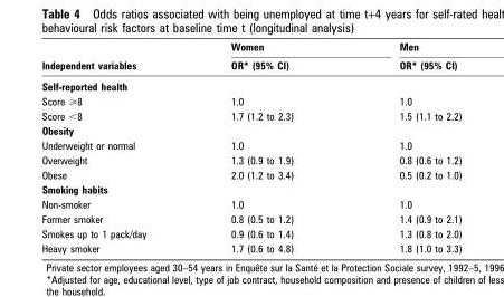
<table><thead><tr><td rowspan="2">Independent variables</td><td rowspan="2">Women OR* (95% CI)</td><td rowspan="2">Men OR* (95% CI)</td></tr><tr></tr></thead><tbody><tr><td colspan="3">Self-reported health</td></tr><tr><td>Score &gt;8</td><td>1.0</td><td>1.0</td></tr><tr><td>Score &lt;8</td><td>1.7 (1.2 to 2.3)</td><td>1.5 (1.1 to 2.2)</td></tr><tr><td colspan="3">Obesity</td></tr><tr><td>Underweight or normal</td><td>1.0</td><td>1.0</td></tr><tr><td>Overweight</td><td>1.3 (0.9 to 1.9)</td><td>0.8 (0.6 to 1.2)</td></tr><tr><td>Obese</td><td>2.0 (1.2 to 3.4)</td><td>0.5 (0.2 to 1.0)</td></tr><tr><td colspan="3">Smoking habits</td></tr><tr><td>Non-smoker</td><td>1.0</td><td>1.0</td></tr><tr><td>Former smoker</td><td>0.8 (0.5 to 1.2)</td><td>1.4 (0.9 to 2.1)</td></tr><tr><td>Smokes up to 1 pack/day</td><td>0.9 (0.6 to 1.4)</td><td>1.3 (0.8 to 2.0)</td></tr><tr><td>Heavy smoker</td><td>1.7 (0.6 to 4.8)</td><td>1.8 (1.0 to 3.3)</td></tr></tbody></table>